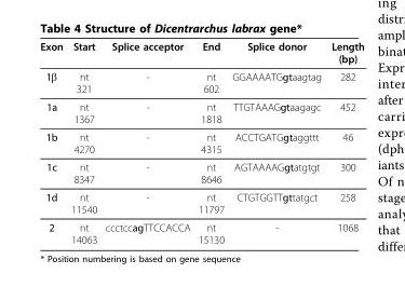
<table><thead><tr><td>Exon</td><td>Start</td><td>Splice acceptor</td><td>End</td><td>Splice donor</td><td>Length (bp)</td></tr></thead><tbody><tr><td>1β</td><td>nt 321</td><td>-</td><td>nt 602</td><td>GGAAAATGgtaagtag</td><td>282</td></tr><tr><td>1a</td><td>nt 1367</td><td>-</td><td>nt 1818</td><td>TTGTAAAGgtaagagc</td><td>452</td></tr><tr><td>1b</td><td>nt 4270</td><td>-</td><td>nt 4315</td><td>ACCTGATGgtaggttt</td><td>46</td></tr><tr><td>1c</td><td>nt 8347</td><td>-</td><td>nt 8646</td><td>AGTAAAAGgtatgtgt</td><td>300</td></tr><tr><td>1d</td><td>nt 11540</td><td>-</td><td>nt 11797</td><td>CTGTGGTTgttatgct</td><td>258</td></tr><tr><td>2</td><td>nt 14063</td><td>ccctccagTTCCACCA</td><td>nt 15130</td><td>-</td><td>1068</td></tr></tbody></table>